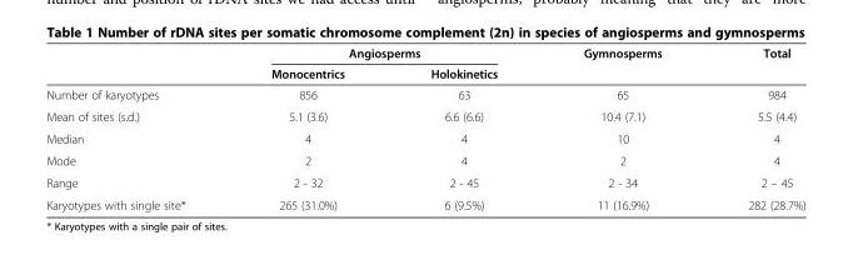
<table><thead><tr><td rowspan="2"></td><td colspan="2">Angiosperms</td><td rowspan="2">Gymnosperms</td><td rowspan="2">Total</td></tr><tr><td>Monocentrics</td><td>Holokinetics</td></tr></thead><tbody><tr><td>Number of karyotypes</td><td>856</td><td>63</td><td>65</td><td>984</td></tr><tr><td>Mean of sites (s.d.)</td><td>5.1 (3.6)</td><td>6.6 (6.6)</td><td>10.4 (7.1)</td><td>5.5 (4.4)</td></tr><tr><td>Median</td><td>4</td><td>4</td><td>10</td><td>4</td></tr><tr><td>Mode</td><td>2</td><td>4</td><td>2</td><td>4</td></tr><tr><td>Range</td><td>2 - 32</td><td>2 - 45</td><td>2 - 34</td><td>2 – 45</td></tr><tr><td>Karyotypes with single site*</td><td>265 (31.0%)</td><td>6 (9.5%)</td><td>11 (16.9%)</td><td>282 (28.7%)</td></tr></tbody></table>